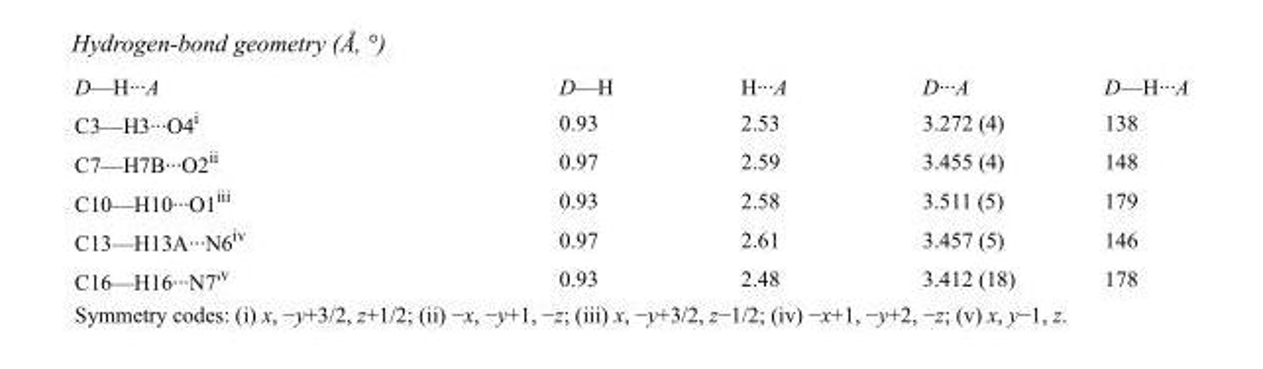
<table><tbody><tr><td>D—H···A</td><td>D—H</td><td>H···A</td><td>D···A</td><td>D—H···A</td></tr><tr><td>C3—H3···O4<sup>i</sup></td><td>0.93</td><td>2.53</td><td>3.272 (4)</td><td>138</td></tr><tr><td>C7—H7B···O2<sup>ii</sup></td><td>0.97</td><td>2.59</td><td>3.455 (4)</td><td>148</td></tr><tr><td>C10—H10···O1<sup>iii</sup></td><td>0.93</td><td>2.58</td><td>3.511 (5)</td><td>179</td></tr><tr><td>C13—H13A···N6<sup>iv</sup></td><td>0.97</td><td>2.61</td><td>3.457 (5)</td><td>146</td></tr><tr><td>C16—H16···N7&#x27;<sup>v</sup></td><td>0.93</td><td>2.48</td><td>3.412 (18)</td><td>178</td></tr></tbody></table>